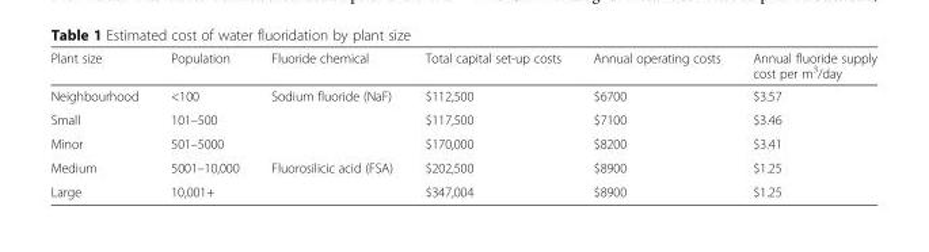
<table><thead><tr><td>Plant size</td><td>Population</td><td>Fluoride chemical</td><td>Total capital set-up costs</td><td>Annual operating costs</td><td>Annual fluoride supply cost per m<sup>3</sup>/day</td></tr></thead><tbody><tr><td>Neighbourhood</td><td>&lt;100</td><td rowspan="3">Sodium fluoride (NaF)</td><td>$112,500</td><td>$6700</td><td>$3.57</td></tr><tr><td>Small</td><td>101–500</td><td>$117,500</td><td>$7100</td><td>$3.46</td></tr><tr><td>Minor</td><td>501–5000</td><td>$170,000</td><td>$8200</td><td>$3.41</td></tr><tr><td>Medium</td><td>5001–10,000</td><td rowspan="2">Fluorosilicic acid (FSA)</td><td>$202,500</td><td>$8900</td><td>$1.25</td></tr><tr><td>Large</td><td>10,001+</td><td>$347,004</td><td>$8900</td><td>$1.25</td></tr></tbody></table>